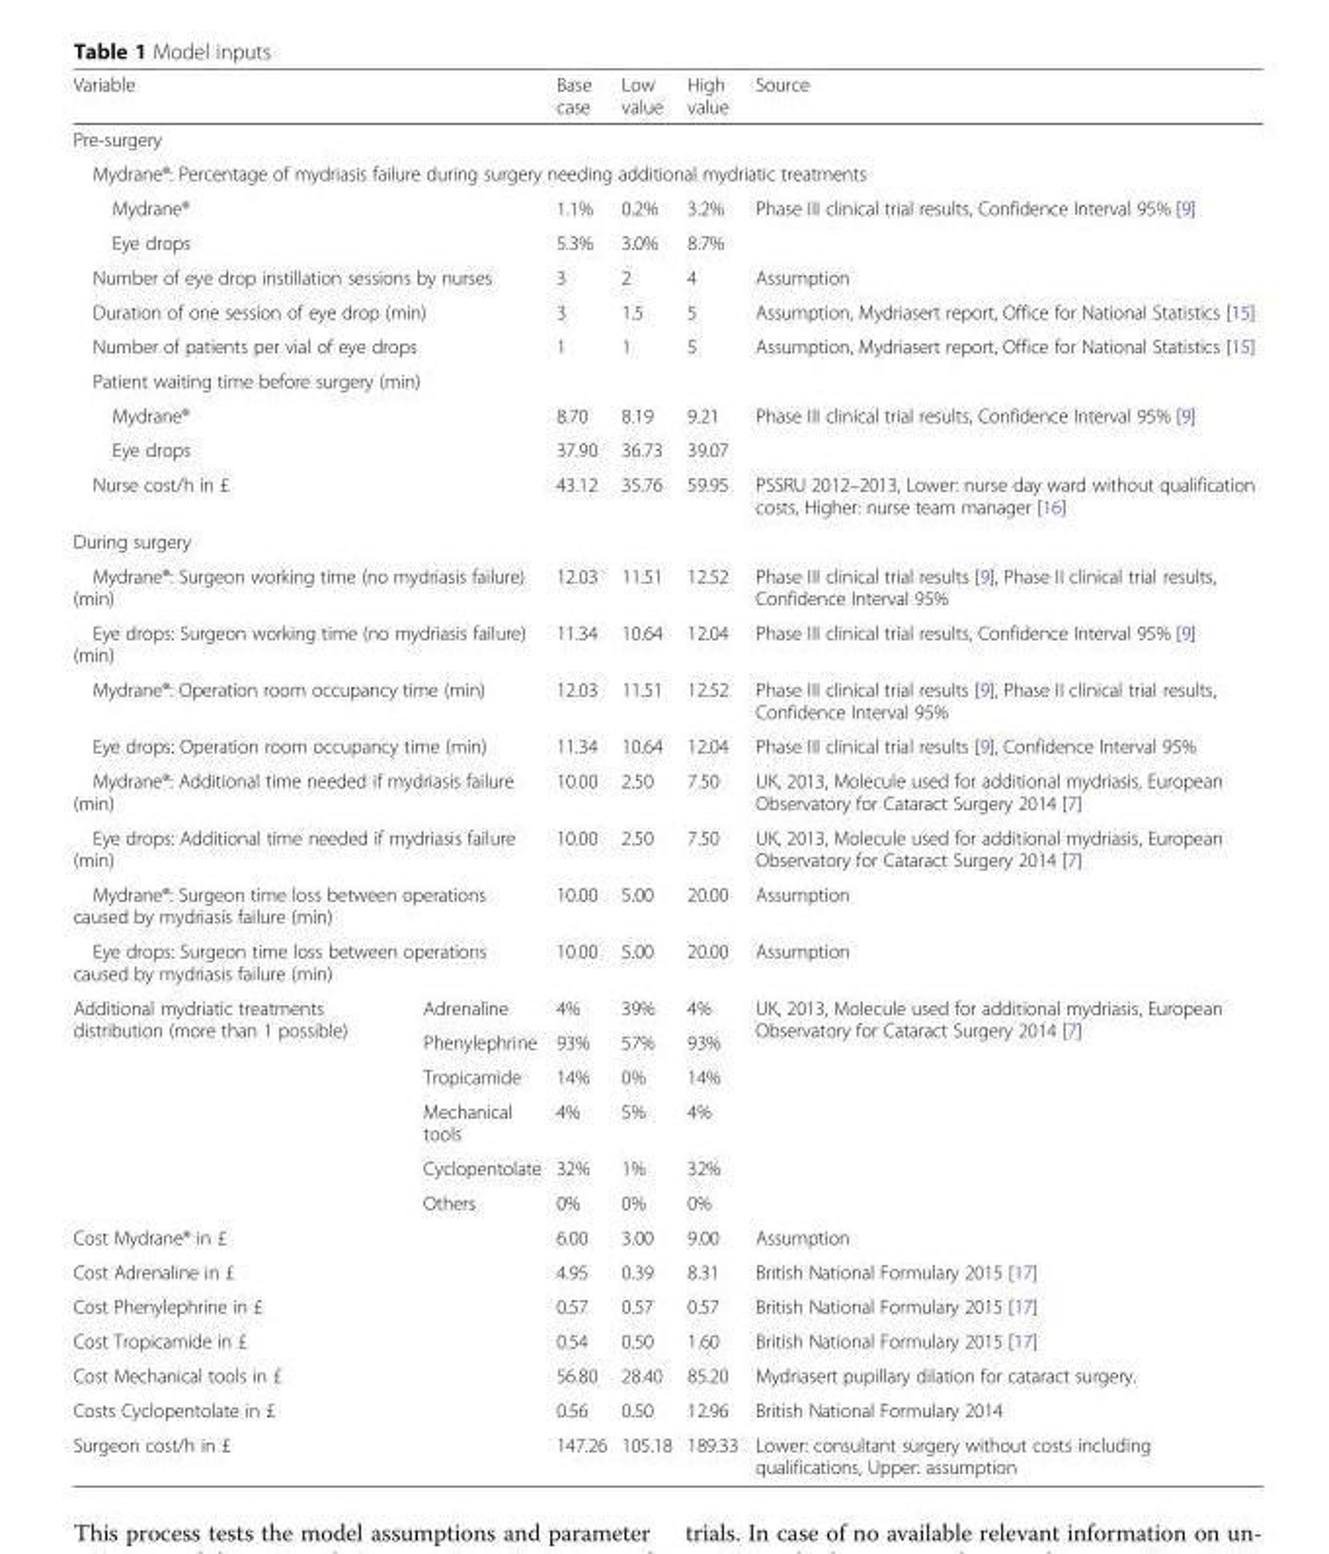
<table><thead><tr><td colspan="2">Variable</td><td>Base case</td><td>Low value</td><td>High value</td><td>Source</td></tr></thead><tbody><tr><td colspan="6">Pre-surgery</td></tr><tr><td colspan="6">Mydrane®: Percentage of mydriasis failure during surgery needing additional mydriatic treatments</td></tr><tr><td colspan="2">Mydrane®</td><td>1.1%</td><td>0.2%</td><td>3.2%</td><td rowspan="2">Phase III clinical trial results, Confidence Interval 95% [9]</td></tr><tr><td colspan="2">Eye drops</td><td>5.3%</td><td>3.0%</td><td>8.7%</td></tr><tr><td colspan="2">Number of eye drop instillation sessions by nurses</td><td>3</td><td>2</td><td>4</td><td>Assumption</td></tr><tr><td colspan="2">Duration of one session of eye drop (min)</td><td>3</td><td>1.5</td><td>5</td><td>Assumption, Mydriasert report, Office for National Statistics [15]</td></tr><tr><td colspan="2">Number of patients per vial of eye drops</td><td>1</td><td>1</td><td>5</td><td>Assumption, Mydriasert report, Office for National Statistics [15]</td></tr><tr><td colspan="6">Patient waiting time before surgery (min)</td></tr><tr><td colspan="2">Mydrane®</td><td>8.70</td><td>8.19</td><td>9.21</td><td rowspan="2">Phase III clinical trial results, Confidence Interval 95% [9]</td></tr><tr><td colspan="2">Eye drops</td><td>37.90</td><td>36.73</td><td>39.07</td></tr><tr><td colspan="2">Nurse cost/h in £</td><td>43.12</td><td>35.76</td><td>59.95</td><td>PSSRU 2012–2013, Lower: nurse day ward without qualification costs, Higher: nurse team manager [16]</td></tr><tr><td colspan="6">During surgery</td></tr><tr><td colspan="2">Mydrane®: Surgeon working time (no mydriasis failure) (min)</td><td>12.03</td><td>11.51</td><td>12.52</td><td>Phase III clinical trial results [9], Phase II clinical trial results, Confidence Interval 95%</td></tr><tr><td colspan="2">Eye drops: Surgeon working time (no mydriasis failure) (min)</td><td>11.34</td><td>10.64</td><td>12.04</td><td>Phase III clinical trial results, Confidence Interval 95% [9]</td></tr><tr><td colspan="2">Mydrane®: Operation room occupancy time (min)</td><td>12.03</td><td>11.51</td><td>12.52</td><td>Phase III clinical trial results [9], Phase II clinical trial results, Confidence Interval 95%</td></tr><tr><td colspan="2">Eye drops: Operation room occupancy time (min)</td><td>11.34</td><td>10.64</td><td>12.04</td><td>Phase III clinical trial results [9], Confidence Interval 95%</td></tr><tr><td colspan="2">Mydrane®: Additional time needed if mydriasis failure (min)</td><td>10.00</td><td>2.50</td><td>7.50</td><td>UK, 2013, Molecule used for additional mydriasis, European Observatory for Cataract Surgery 2014 [7]</td></tr><tr><td colspan="2">Eye drops: Additional time needed if mydriasis failure (min)</td><td>10.00</td><td>2.50</td><td>7.50</td><td>UK, 2013, Molecule used for additional mydriasis, European Observatory for Cataract Surgery 2014 [7]</td></tr><tr><td colspan="2">Mydrane®: Surgeon time loss between operations caused by mydriasis failure (min)</td><td>10.00</td><td>5.00</td><td>20.00</td><td>Assumption</td></tr><tr><td colspan="2">Eye drops: Surgeon time loss between operations caused by mydriasis failure (min)</td><td>10.00</td><td>5.00</td><td>20.00</td><td>Assumption</td></tr><tr><td rowspan="6">Additional mydriatic treatments distribution (more than 1 possible)</td><td>Adrenaline</td><td>4%</td><td>39%</td><td>4%</td><td rowspan="6">UK, 2013, Molecule used for additional mydriasis, European Observatory for Cataract Surgery 2014 [7]</td></tr><tr><td>Phenylephrine</td><td>93%</td><td>57%</td><td>93%</td></tr><tr><td>Tropicamide</td><td>14%</td><td>0%</td><td>14%</td></tr><tr><td>Mechanical tools</td><td>4%</td><td>5%</td><td>4%</td></tr><tr><td>Cyclopentolate</td><td>32%</td><td>1%</td><td>32%</td></tr><tr><td>Others</td><td>0%</td><td>0%</td><td>0%</td></tr><tr><td colspan="2">Cost Mydrane® in £</td><td>6.00</td><td>3.00</td><td>9.00</td><td>Assumption</td></tr><tr><td colspan="2">Cost Adrenaline in £</td><td>4.95</td><td>0.39</td><td>8.31</td><td>British National Formulary 2015 [17]</td></tr><tr><td colspan="2">Cost Phenylephrine in £</td><td>0.57</td><td>0.57</td><td>0.57</td><td>British National Formulary 2015 [17]</td></tr><tr><td colspan="2">Cost Tropicamide in £</td><td>0.54</td><td>0.50</td><td>1.60</td><td>British National Formulary 2015 [17]</td></tr><tr><td colspan="2">Cost Mechanical tools in £</td><td>56.80</td><td>28.40</td><td>85.20</td><td>Mydriasert pupillary dilation for cataract surgery.</td></tr><tr><td colspan="2">Costs Cyclopentolate in £</td><td>0.56</td><td>0.50</td><td>12.96</td><td>British National Formulary 2014</td></tr><tr><td colspan="2">Surgeon cost/h in £</td><td>147.26</td><td>105.18</td><td>189.33</td><td>Lower: consultant surgery without costs including qualifications, Upper: assumption</td></tr></tbody></table>